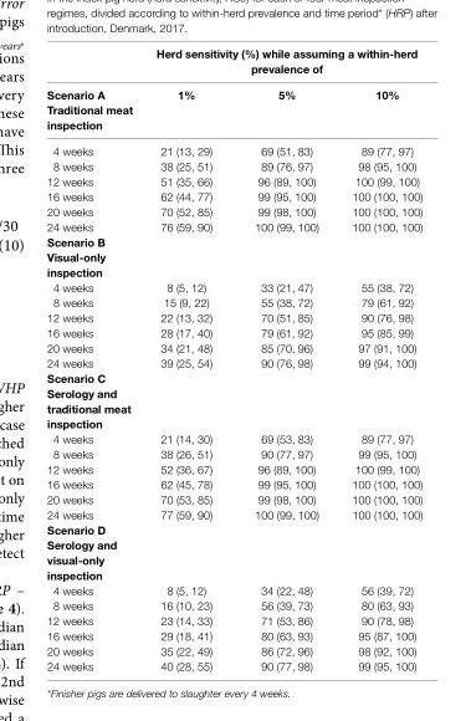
<table><thead><tr><td rowspan="2">scenario a traditional meat inspection</td><td colspan="3">herd sensitivity (%) while assuming a within-herd prevalence of</td></tr><tr><td>1%</td><td>5%</td><td>10%</td></tr></thead><tbody><tr><td>4 weeks</td><td>21 (13, 29)</td><td>69 (51, 83)</td><td>89 (77, 97)</td></tr><tr><td>8 weeks</td><td>38 (25, 51)</td><td>89 (76, 97)</td><td>98 (95, 100)</td></tr><tr><td>12 weeks</td><td>51 (35, 66)</td><td>96 (89, 100)</td><td>100 (99, 100)</td></tr><tr><td>16 weeks</td><td>62 (44, 77)</td><td>99 (95, 100)</td><td>100 (100, 100)</td></tr><tr><td>20 weeks</td><td>70 (52, 85)</td><td>99 (98, 100)</td><td>100 (100, 100)</td></tr><tr><td>24 weeks</td><td>76 (59, 90)</td><td>100 (99, 100)</td><td>100 (100, 100)</td></tr><tr><td colspan="4">scenario B Visual-only inspection</td></tr><tr><td>4 weeks</td><td>8 (5, 12)</td><td>33 (21, 47)</td><td>55 (38, 72)</td></tr><tr><td>8 weeks</td><td>15 (9, 22)</td><td>55 (38, 72)</td><td>79 (61, 92)</td></tr><tr><td>12 weeks</td><td>22 (13, 32)</td><td>70 (51, 85)</td><td>90 (76, 98)</td></tr><tr><td>16 weeks</td><td>28 (17, 40)</td><td>79 (61, 92)</td><td>95 (85, 99)</td></tr><tr><td>20 weeks</td><td>34 (21, 48)</td><td>85 (70, 96)</td><td>97 (91, 100)</td></tr><tr><td>24 weeks</td><td>39 (25, 54)</td><td>90 (76, 98)</td><td>99 (94, 100)</td></tr><tr><td colspan="4">scenario c serology and traditional meat inspection</td></tr><tr><td>4 weeks</td><td>21 (14, 30)</td><td>69 (53, 83)</td><td>89 (77, 97)</td></tr><tr><td>8 weeks</td><td>38 (26, 51)</td><td>90 (77, 97)</td><td>99 (95, 100)</td></tr><tr><td>12 weeks</td><td>52 (36, 67)</td><td>96 (89, 100)</td><td>100 (99, 100)</td></tr><tr><td>16 weeks</td><td>62 (45, 78)</td><td>99 (95, 100)</td><td>100 (100, 100)</td></tr><tr><td>20 weeks</td><td>70 (53, 85)</td><td>99 (98, 100)</td><td>100 (100, 100)</td></tr><tr><td>24 weeks</td><td>77 (59, 90)</td><td>100 (99, 100)</td><td>100 (100, 100)</td></tr><tr><td colspan="4">scenario d serology and visual-only inspection</td></tr><tr><td>4 weeks</td><td>8 (5, 12)</td><td>34 (22, 48)</td><td>56 (39, 72)</td></tr><tr><td>8 weeks</td><td>16 (10, 23)</td><td>56 (39, 73)</td><td>80 (63, 93)</td></tr><tr><td>12 weeks</td><td>23 (14, 33)</td><td>71 (53, 86)</td><td>90 (78, 98)</td></tr><tr><td>16 weeks</td><td>29 (18, 41)</td><td>80 (63, 93)</td><td>95 (87, 100)</td></tr><tr><td>20 weeks</td><td>35 (22, 49)</td><td>86 (72, 96)</td><td>98 (92, 100)</td></tr><tr><td>24 weeks</td><td>40 (28, 55)</td><td>90 (77, 98)</td><td>99 (95, 100)</td></tr></tbody></table>